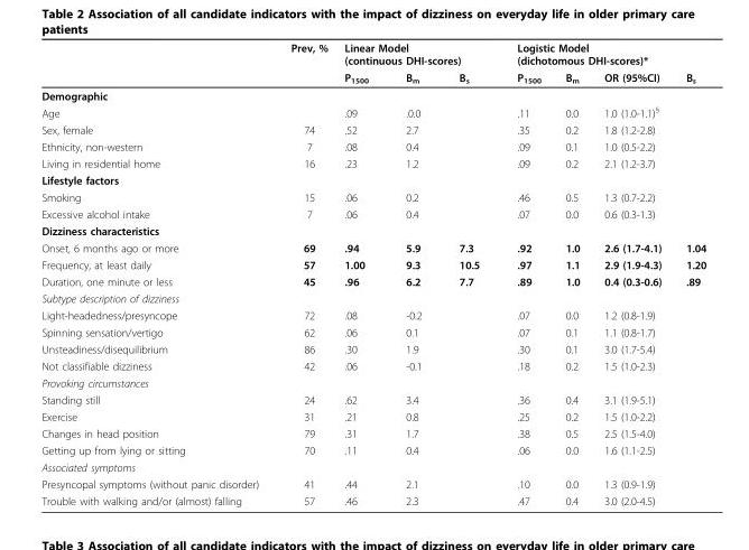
<table><thead><tr><td rowspan="2"></td><td rowspan="2">Prev, %</td><td colspan="3">Linear Model (continuous DHI-scores)</td><td colspan="4">Logistic Model (dichotomous DHI-scores)*</td></tr><tr><td>P<sub>1500</sub></td><td>B<sub>m</sub></td><td>B<sub>s</sub></td><td>P<sub>1500</sub></td><td>B<sub>m</sub></td><td>OR (95%CI)</td><td>B<sub>s</sub></td></tr></thead><tbody><tr><td colspan="9">Demographic</td></tr><tr><td>Age</td><td></td><td>.09</td><td>.0.0</td><td></td><td>.11</td><td>0.0</td><td>1.0 (1.0-1.1)<sup>§</sup></td><td></td></tr><tr><td>Sex, female</td><td>74</td><td>.52</td><td>2.7</td><td></td><td>.35</td><td>0.2</td><td>1.8 (1.2-2.8)</td><td></td></tr><tr><td>Ethnicity, non-western</td><td>7</td><td>.08</td><td>0.4</td><td></td><td>.09</td><td>0.1</td><td>1.0 (0.5-2.2)</td><td></td></tr><tr><td>Living in residential home</td><td>16</td><td>.23</td><td>1.2</td><td></td><td>.09</td><td>0.2</td><td>2.1 (1.2-3.7)</td><td></td></tr><tr><td colspan="9">Lifestyle factors</td></tr><tr><td>Smoking</td><td>15</td><td>.06</td><td>0.2</td><td></td><td>.46</td><td>0.5</td><td>1.3 (0.7-2.2)</td><td></td></tr><tr><td>Excessive alcohol intake</td><td>7</td><td>.06</td><td>0.4</td><td></td><td>.07</td><td>0.0</td><td>0.6 (0.3-1.3)</td><td></td></tr><tr><td colspan="9">Dizziness characteristics</td></tr><tr><td>Onset, 6 months ago or more</td><td>69</td><td>.94</td><td>5.9</td><td>7.3</td><td>.92</td><td>1.0</td><td>2.6 (1.7-4.1)</td><td>1.04</td></tr><tr><td>Frequency, at least daily</td><td>57</td><td>1.00</td><td>9.3</td><td>10.5</td><td>.97</td><td>1.1</td><td>2.9 (1.9-4.3)</td><td>1.20</td></tr><tr><td>Duration, one minute or less</td><td>45</td><td>.96</td><td>6.2</td><td>7.7</td><td>.89</td><td>1.0</td><td>0.4 (0.3-0.6)</td><td>.89</td></tr><tr><td colspan="9">Subtype description of dizziness</td></tr><tr><td>Light-headedness/presyncope</td><td>72</td><td>.08</td><td>-0.2</td><td></td><td>.07</td><td>0.0</td><td>1.2 (0.8-1.9)</td><td></td></tr><tr><td>Spinning sensation/vertigo</td><td>62</td><td>.06</td><td>0.1</td><td></td><td>.07</td><td>0.1</td><td>1.1 (0.8-1.7)</td><td></td></tr><tr><td>Unsteadiness/disequilibrium</td><td>86</td><td>.30</td><td>1.9</td><td></td><td>.30</td><td>0.1</td><td>3.0 (1.7-5.4)</td><td></td></tr><tr><td>Not classifiable dizziness</td><td>42</td><td>.06</td><td>-0.1</td><td></td><td>.18</td><td>0.2</td><td>1.5 (1.0-2.3)</td><td></td></tr><tr><td colspan="9">Provoking circumstances</td></tr><tr><td>Standing still</td><td>24</td><td>.62</td><td>3.4</td><td></td><td>.36</td><td>0.4</td><td>3.1 (1.9-5.1)</td><td></td></tr><tr><td>Exercise</td><td>31</td><td>.21</td><td>0.8</td><td></td><td>.25</td><td>0.2</td><td>1.5 (1.0-2.2)</td><td></td></tr><tr><td>Changes in head position</td><td>79</td><td>.31</td><td>1.7</td><td></td><td>.38</td><td>0.5</td><td>2.5 (1.5-4.0)</td><td></td></tr><tr><td>Getting up from lying or sitting</td><td>70</td><td>.11</td><td>0.4</td><td></td><td>.06</td><td>0.0</td><td>1.6 (1.1-2.5)</td><td></td></tr><tr><td colspan="9">Associated symptoms</td></tr><tr><td>Presyncopal symptoms (without panic disorder)</td><td>41</td><td>.44</td><td>2.1</td><td></td><td>.10</td><td>0.0</td><td>1.3 (0.9-1.9)</td><td></td></tr><tr><td>Trouble with walking and/or (almost) falling</td><td>57</td><td>.46</td><td>2.3</td><td></td><td>.47</td><td>0.4</td><td>3.0 (2.0-4.5)</td><td></td></tr></tbody></table>